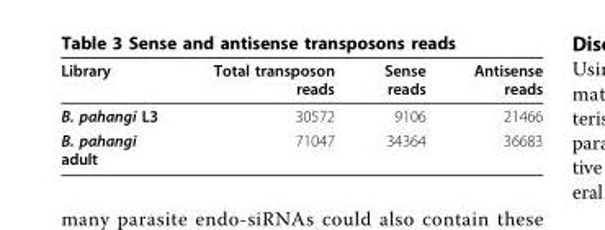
<table><thead><tr><td>Library</td><td>Total transposon reads</td><td>Sense reads</td><td>Antisense reads</td></tr></thead><tbody><tr><td>B. pahangi L3</td><td>30572</td><td>9106</td><td>21466</td></tr><tr><td>B. pahangi adult</td><td>71047</td><td>34364</td><td>36683</td></tr></tbody></table>